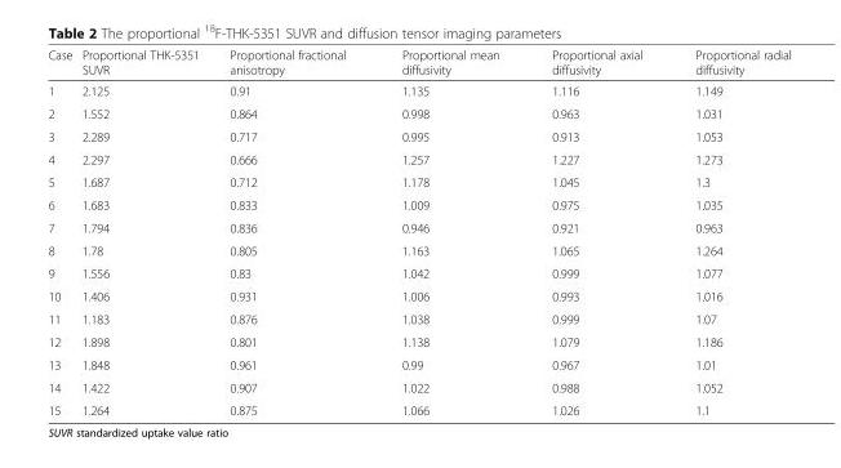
<table><thead><tr><td>Case</td><td>Proportional THK-5351 SUVR</td><td>Proportional fractional anisotropy</td><td>Proportional mean diffusivity</td><td>Proportional axial diffusivity</td><td>Proportional radial diffusivity</td></tr></thead><tbody><tr><td>1</td><td>2.125</td><td>0.91</td><td>1.135</td><td>1.116</td><td>1.149</td></tr><tr><td>2</td><td>1.552</td><td>0.864</td><td>0.998</td><td>0.963</td><td>1.031</td></tr><tr><td>3</td><td>2.289</td><td>0.717</td><td>0.995</td><td>0.913</td><td>1.053</td></tr><tr><td>4</td><td>2.297</td><td>0.666</td><td>1.257</td><td>1.227</td><td>1.273</td></tr><tr><td>5</td><td>1.687</td><td>0.712</td><td>1.178</td><td>1.045</td><td>1.3</td></tr><tr><td>6</td><td>1.683</td><td>0.833</td><td>1.009</td><td>0.975</td><td>1.035</td></tr><tr><td>7</td><td>1.794</td><td>0.836</td><td>0.946</td><td>0.921</td><td>0.963</td></tr><tr><td>8</td><td>1.78</td><td>0.805</td><td>1.163</td><td>1.065</td><td>1.264</td></tr><tr><td>9</td><td>1.556</td><td>0.83</td><td>1.042</td><td>0.999</td><td>1.077</td></tr><tr><td>10</td><td>1.406</td><td>0.931</td><td>1.006</td><td>0.993</td><td>1.016</td></tr><tr><td>11</td><td>1.183</td><td>0.876</td><td>1.038</td><td>0.999</td><td>1.07</td></tr><tr><td>12</td><td>1.898</td><td>0.801</td><td>1.138</td><td>1.079</td><td>1.186</td></tr><tr><td>13</td><td>1.848</td><td>0.961</td><td>0.99</td><td>0.967</td><td>1.01</td></tr><tr><td>14</td><td>1.422</td><td>0.907</td><td>1.022</td><td>0.988</td><td>1.052</td></tr><tr><td>15</td><td>1.264</td><td>0.875</td><td>1.066</td><td>1.026</td><td>1.1</td></tr></tbody></table>